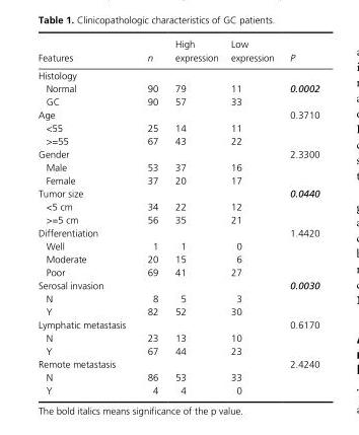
<table><thead><tr><td>Features</td><td>n</td><td>High expression</td><td>Low expression</td><td>P</td></tr></thead><tbody><tr><td colspan="5">Histology</td></tr><tr><td>Normal</td><td>90</td><td>79</td><td>11</td><td>0.0002</td></tr><tr><td>GC</td><td>90</td><td>57</td><td>33</td><td></td></tr><tr><td>Age</td><td></td><td></td><td></td><td>0.3710</td></tr><tr><td>&lt;55</td><td>25</td><td>14</td><td>11</td><td></td></tr><tr><td>&gt;=55</td><td>67</td><td>43</td><td>22</td><td></td></tr><tr><td>Gender</td><td></td><td></td><td></td><td>2.3300</td></tr><tr><td>Male</td><td>53</td><td>37</td><td>16</td><td></td></tr><tr><td>Female</td><td>37</td><td>20</td><td>17</td><td></td></tr><tr><td>Tumor size</td><td></td><td></td><td></td><td>0.0440</td></tr><tr><td>&lt;5 cm</td><td>34</td><td>22</td><td>12</td><td></td></tr><tr><td>&gt;=5 cm</td><td>56</td><td>35</td><td>21</td><td></td></tr><tr><td>Differentiation</td><td></td><td></td><td></td><td>1.4420</td></tr><tr><td>Well</td><td>1</td><td>1</td><td>0</td><td></td></tr><tr><td>Moderate</td><td>20</td><td>15</td><td>6</td><td></td></tr><tr><td>Poor</td><td>69</td><td>41</td><td>27</td><td></td></tr><tr><td>Serosal invasion</td><td></td><td></td><td></td><td>0.0030</td></tr><tr><td>N</td><td>8</td><td>5</td><td>3</td><td></td></tr><tr><td>Y</td><td>82</td><td>52</td><td>30</td><td></td></tr><tr><td>Lymphatic metastasis</td><td></td><td></td><td></td><td>0.6170</td></tr><tr><td>N</td><td>23</td><td>13</td><td>10</td><td></td></tr><tr><td>Y</td><td>67</td><td>44</td><td>23</td><td></td></tr><tr><td>Remote metastasis</td><td></td><td></td><td></td><td>2.4240</td></tr><tr><td>N</td><td>86</td><td>53</td><td>33</td><td></td></tr><tr><td>Y</td><td>4</td><td>4</td><td>0</td><td></td></tr></tbody></table>